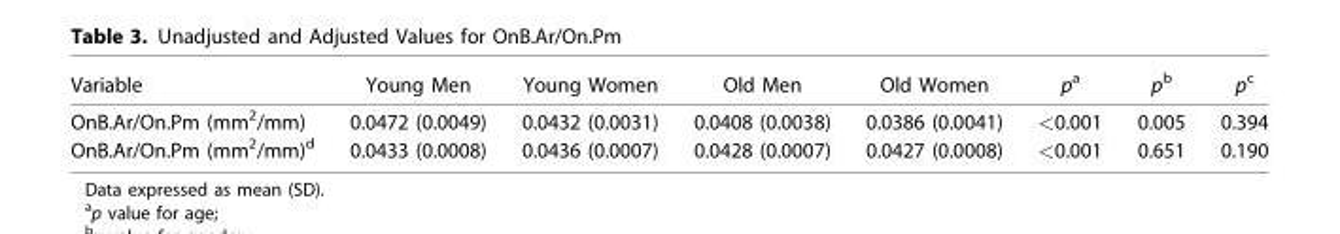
<table><thead><tr><td>Variable</td><td>Young Men</td><td>Young Women</td><td>Old Men</td><td>Old Women</td><td>p<sup>a</sup></td><td>p<sup>b</sup></td><td>p<sup>c</sup></td></tr></thead><tbody><tr><td>OnB.Ar/On.Pm (mm<sup>2</sup>/mm)</td><td>0.0472 (0.0049)</td><td>0.0432 (0.0031)</td><td>0.0408 (0.0038)</td><td>0.0386 (0.0041)</td><td>&lt;0.001</td><td>0.005</td><td>0.394</td></tr><tr><td>OnB.Ar/On.Pm (mm<sup>2</sup>/mm)<sup>d</sup></td><td>0.0433 (0.0008)</td><td>0.0436 (0.0007)</td><td>0.0428 (0.0007)</td><td>0.0427 (0.0008)</td><td>&lt;0.001</td><td>0.651</td><td>0.190</td></tr></tbody></table>